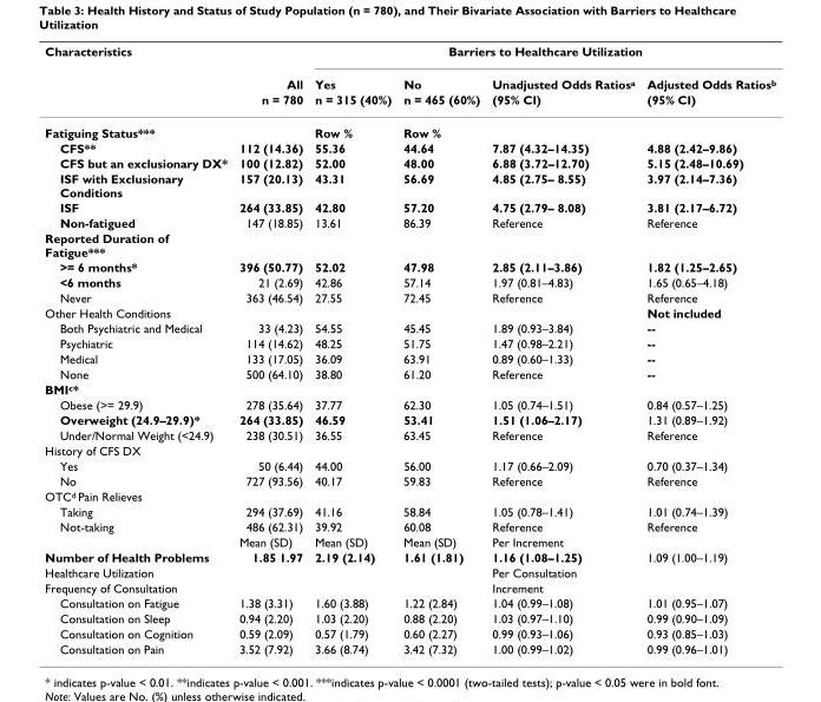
<table><thead><tr><td rowspan="3">Characteristics</td><td rowspan="3">All n = 780</td><td colspan="4">Barriers to Healthcare Utilization</td></tr><tr><td rowspan="2">Yes n = 315 (40%)</td><td rowspan="2">No n = 465 (60%)</td><td rowspan="2">Unadjusted Odds Ratios<sup>a</sup> (95% CI)</td><td rowspan="2">Adjusted Odds Ratios<sup>b</sup> (95% CI)</td></tr><tr></tr></thead><tbody><tr><td>Fatiguing Status***</td><td></td><td>Row %</td><td>Row %</td><td></td><td></td></tr><tr><td>CFS**</td><td>112 (14.36)</td><td>55.36</td><td>44.64</td><td>7.87 (4.32–14.35)</td><td>4.88 (2.42–9.86)</td></tr><tr><td>CFS but an exclusionary DX*</td><td>100 (12.82)</td><td>52.00</td><td>48.00</td><td>6.88 (3.72–12.70)</td><td>5.15 (2.48–10.69)</td></tr><tr><td>ISF with Exclusionary Conditions</td><td>157 (20.13)</td><td>43.31</td><td>56.69</td><td>4.85 (2.75– 8.55)</td><td>3.97 (2.14–7.36)</td></tr><tr><td>ISF</td><td>264 (33.85)</td><td>42.80</td><td>57.20</td><td>4.75 (2.79– 8.08)</td><td>3.81 (2.17–6.72)</td></tr><tr><td>Non-fatigued</td><td>147 (18.85)</td><td>13.61</td><td>86.39</td><td>Reference</td><td>Reference</td></tr><tr><td colspan="6">Reported Duration of Fatigue***</td></tr><tr><td>&gt;= 6 months*</td><td>396 (50.77)</td><td>52.02</td><td>47.98</td><td>2.85 (2.11–3.86)</td><td>1.82 (1.25–2.65)</td></tr><tr><td>&lt;6 months</td><td>21 (2.69)</td><td>42.86</td><td>57.14</td><td>1.97 (0.81–4.83)</td><td>1.65 (0.65–4.18)</td></tr><tr><td>Never</td><td>363 (46.54)</td><td>27.55</td><td>72.45</td><td>Reference</td><td>Reference</td></tr><tr><td>Other Health Conditions</td><td></td><td></td><td></td><td></td><td>Not included</td></tr><tr><td>Both Psychiatric and Medical</td><td>33 (4.23)</td><td>54.55</td><td>45.45</td><td>1.89 (0.93–3.84)</td><td>--</td></tr><tr><td>Psychiatric</td><td>114 (14.62)</td><td>48.25</td><td>51.75</td><td>1.47 (0.98–2.21)</td><td>--</td></tr><tr><td>Medical</td><td>133 (17.05)</td><td>36.09</td><td>63.91</td><td>0.89 (0.60–1.33)</td><td>--</td></tr><tr><td>None</td><td>500 (64.10)</td><td>38.80</td><td>61.20</td><td>Reference</td><td>--</td></tr><tr><td colspan="6">BMI<sup>c</sup>*</td></tr><tr><td>Obese (&gt;= 29.9)</td><td>278 (35.64)</td><td>37.77</td><td>62.30</td><td>1.05 (0.74–1.51)</td><td>0.84 (0.57–1.25)</td></tr><tr><td>Overweight (24.9–29.9)*</td><td>264 (33.85)</td><td>46.59</td><td>53.41</td><td>1.51 (1.06–2.17)</td><td>1.31 (0.89–1.92)</td></tr><tr><td>Under/Normal Weight (&lt;24.9)</td><td>238 (30.51)</td><td>36.55</td><td>63.45</td><td>Reference</td><td>Reference</td></tr><tr><td colspan="6">History of CFS DX</td></tr><tr><td>Yes</td><td>50 (6.44)</td><td>44.00</td><td>56.00</td><td>1.17 (0.66–2.09)</td><td>0.70 (0.37–1.34)</td></tr><tr><td>No</td><td>727 (93.56)</td><td>40.17</td><td>59.83</td><td>Reference</td><td>Reference</td></tr><tr><td colspan="6">OTC<sup>d</sup> Pain Relieves</td></tr><tr><td>Taking</td><td>294 (37.69)</td><td>41.16</td><td>58.84</td><td>1.05 (0.78–1.41)</td><td>1.01 (0.74–1.39)</td></tr><tr><td rowspan="2">Not-taking</td><td>486 (62.31)</td><td>39.92</td><td>60.08</td><td>Reference</td><td>Reference</td></tr><tr><td>Mean (SD)</td><td>Mean (SD)</td><td>Mean (SD)</td><td>Per Increment</td><td></td></tr><tr><td>Number of Health Problems</td><td>1.85 1.97</td><td>2.19 (2.14)</td><td>1.61 (1.81)</td><td>1.16 (1.08–1.25)</td><td>1.09 (1.00–1.19)</td></tr><tr><td>Healthcare Utilization</td><td></td><td></td><td></td><td>Per Consultation</td><td></td></tr><tr><td>Frequency of Consultation</td><td></td><td></td><td></td><td>Increment</td><td></td></tr><tr><td>Consultation on Fatigue</td><td>1.38 (3.31)</td><td>1.60 (3.88)</td><td>1.22 (2.84)</td><td>1.04 (0.99–1.08)</td><td>1.01 (0.95–1.07)</td></tr><tr><td>Consultation on Sleep</td><td>0.94 (2.20)</td><td>1.03 (2.20)</td><td>0.88 (2.20)</td><td>1.03 (0.97–1.10)</td><td>0.99 (0.90–1.09)</td></tr><tr><td>Consultation on Cognition</td><td>0.59 (2.09)</td><td>0.57 (1.79)</td><td>0.60 (2.27)</td><td>0.99 (0.93–1.06)</td><td>0.93 (0.85–1.03)</td></tr><tr><td>Consultation on Pain</td><td>3.52 (7.92)</td><td>3.66 (8.74)</td><td>3.42 (7.32)</td><td>1.00 (0.99–1.02)</td><td>0.99 (0.96–1.01)</td></tr></tbody></table>